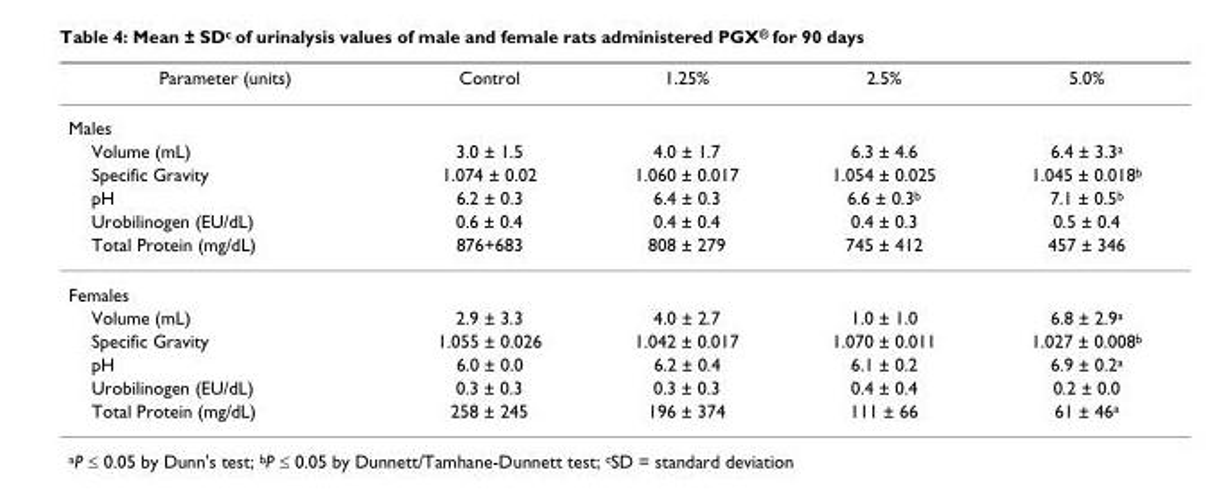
<table><thead><tr><td>Parameter (units)</td><td>Control</td><td>1.25%</td><td>2.5%</td><td>5.0%</td></tr></thead><tbody><tr><td colspan="5">Males</td></tr><tr><td>Volume (mL)</td><td>3.0 ± 1.5</td><td>4.0 ± 1.7</td><td>6.3 ± 4.6</td><td>6.4 ± 3.3<sup>a</sup></td></tr><tr><td>Specific Gravity</td><td>1.074 ± 0.02</td><td>1.060 ± 0.017</td><td>1.054 ± 0.025</td><td>1.045 ± 0.018<sup>b</sup></td></tr><tr><td>pH</td><td>6.2 ± 0.3</td><td>6.4 ± 0.3</td><td>6.6 ± 0.3<sup>b</sup></td><td>7.1 ± 0.5<sup>b</sup></td></tr><tr><td>Urobilinogen (EU/dL)</td><td>0.6 ± 0.4</td><td>0.4 ± 0.4</td><td>0.4 ± 0.3</td><td>0.5 ± 0.4</td></tr><tr><td>Total Protein (mg/dL)</td><td>876+683</td><td>808 ± 279</td><td>745 ± 412</td><td>457 ± 346</td></tr><tr><td colspan="5">Females</td></tr><tr><td>Volume (mL)</td><td>2.9 ± 3.3</td><td>4.0 ± 2.7</td><td>1.0 ± 1.0</td><td>6.8 ± 2.9<sup>a</sup></td></tr><tr><td>Specific Gravity</td><td>1.055 ± 0.026</td><td>1.042 ± 0.017</td><td>1.070 ± 0.011</td><td>1.027 ± 0.008<sup>b</sup></td></tr><tr><td>pH</td><td>6.0 ± 0.0</td><td>6.2 ± 0.4</td><td>6.1 ± 0.2</td><td>6.9 ± 0.2<sup>a</sup></td></tr><tr><td>Urobilinogen (EU/dL)</td><td>0.3 ± 0.3</td><td>0.3 ± 0.3</td><td>0.4 ± 0.4</td><td>0.2 ± 0.0</td></tr><tr><td>Total Protein (mg/dL)</td><td>258 ± 245</td><td>196 ± 374</td><td>111 ± 66</td><td>61 ± 46<sup>a</sup></td></tr></tbody></table>